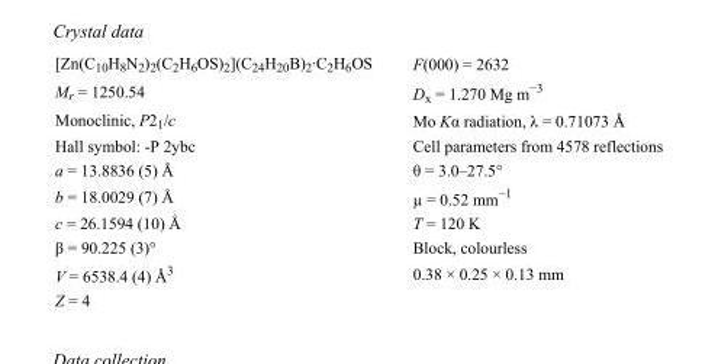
<table><tbody><tr><td>[Zn(C<sub>10</sub>H<sub>8</sub>N<sub>2</sub>)<sub>2</sub>(C<sub>2</sub>H<sub>6</sub>OS)<sub>2</sub>](C<sub>24</sub>H<sub>20</sub>B)<sub>2</sub>·C<sub>2</sub>H<sub>6</sub>OS</td><td>F(000) = 2632</td></tr><tr><td>M<sub>r</sub> = 1250.54</td><td>D<sub>x</sub> = 1.270 Mg m<sup>−3</sup></td></tr><tr><td>Monoclinic, P2<sub>1</sub>/c</td><td>Mo Kα radiation, λ = 0.71073 Å</td></tr><tr><td>Hall symbol: -P 2ybc</td><td>Cell parameters from 4578 reflections</td></tr><tr><td>a = 13.8836 (5) Å</td><td>θ = 3.0–27.5°</td></tr><tr><td>b = 18.0029 (7) Å</td><td>µ = 0.52 mm<sup>−1</sup></td></tr><tr><td>c = 26.1594 (10) Å</td><td>T = 120 K</td></tr><tr><td>β = 90.225 (3)°</td><td>Block, colourless</td></tr><tr><td>V = 6538.4 (4) Å<sup>3</sup></td><td>0.38 × 0.25 × 0.13 mm</td></tr><tr><td>Z = 4</td><td></td></tr></tbody></table>